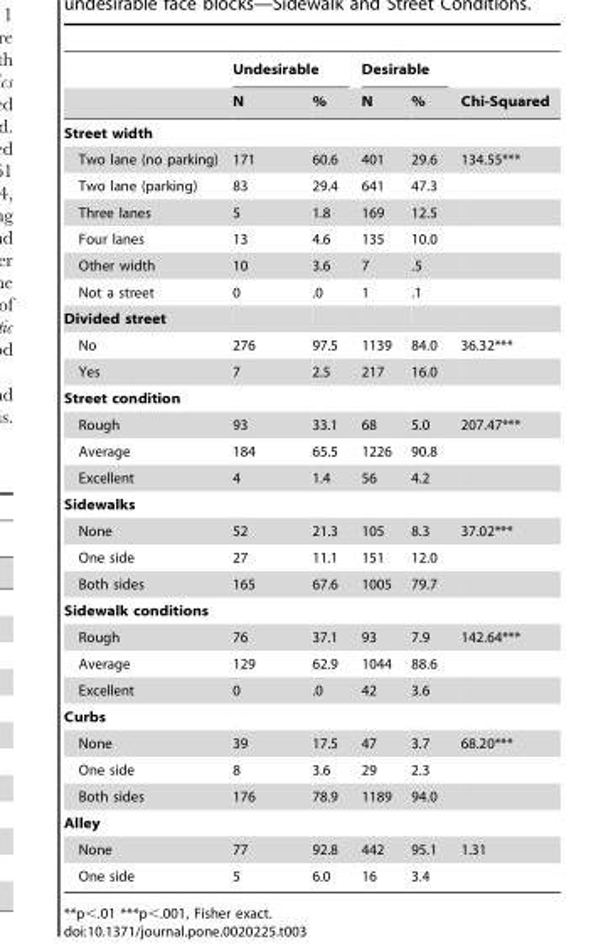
<table><thead><tr><td rowspan="2"></td><td colspan="2">Undesirable</td><td colspan="2">Desirable</td><td rowspan="2">Chi-Squared</td></tr><tr><td>N</td><td>%</td><td>N</td><td>%</td></tr></thead><tbody><tr><td colspan="6">Street width</td></tr><tr><td>Two lane (no parking)</td><td>171</td><td>60.6</td><td>401</td><td>29.6</td><td>134.55***</td></tr><tr><td>Two lane (parking)</td><td>83</td><td>29.4</td><td>641</td><td>47.3</td><td></td></tr><tr><td>Three lanes</td><td>5</td><td>1.8</td><td>169</td><td>12.5</td><td></td></tr><tr><td>Four lanes</td><td>13</td><td>4.6</td><td>135</td><td>10.0</td><td></td></tr><tr><td>Other width</td><td>10</td><td>3.6</td><td>7</td><td>.5</td><td></td></tr><tr><td>Not a street</td><td>0</td><td>.0</td><td>1</td><td>.1</td><td></td></tr><tr><td colspan="6">Divided street</td></tr><tr><td>No</td><td>276</td><td>97.5</td><td>1139</td><td>84.0</td><td>36.32***</td></tr><tr><td>Yes</td><td>7</td><td>2.5</td><td>217</td><td>16.0</td><td></td></tr><tr><td colspan="6">Street condition</td></tr><tr><td>Rough</td><td>93</td><td>33.1</td><td>68</td><td>5.0</td><td>207.47***</td></tr><tr><td>Average</td><td>184</td><td>65.5</td><td>1226</td><td>90.8</td><td></td></tr><tr><td>Excellent</td><td>4</td><td>1.4</td><td>56</td><td>4.2</td><td></td></tr><tr><td colspan="6">Sidewalks</td></tr><tr><td>None</td><td>52</td><td>21.3</td><td>105</td><td>8.3</td><td>37.02***</td></tr><tr><td>One side</td><td>27</td><td>11.1</td><td>151</td><td>12.0</td><td></td></tr><tr><td>Both sides</td><td>165</td><td>67.6</td><td>1005</td><td>79.7</td><td></td></tr><tr><td colspan="6">Sidewalk conditions</td></tr><tr><td>Rough</td><td>76</td><td>37.1</td><td>93</td><td>7.9</td><td>142.64***</td></tr><tr><td>Average</td><td>129</td><td>62.9</td><td>1044</td><td>88.6</td><td></td></tr><tr><td>Excellent</td><td>0</td><td>.0</td><td>42</td><td>3.6</td><td></td></tr><tr><td colspan="6">Curbs</td></tr><tr><td>None</td><td>39</td><td>17.5</td><td>47</td><td>3.7</td><td>68.20***</td></tr><tr><td>One side</td><td>8</td><td>3.6</td><td>29</td><td>2.3</td><td></td></tr><tr><td>Both sides</td><td>176</td><td>78.9</td><td>1189</td><td>94.0</td><td></td></tr><tr><td colspan="6">Alley</td></tr><tr><td>None</td><td>77</td><td>92.8</td><td>442</td><td>95.1</td><td>1.31</td></tr><tr><td>One side</td><td>5</td><td>6.0</td><td>16</td><td>3.4</td><td></td></tr></tbody></table>